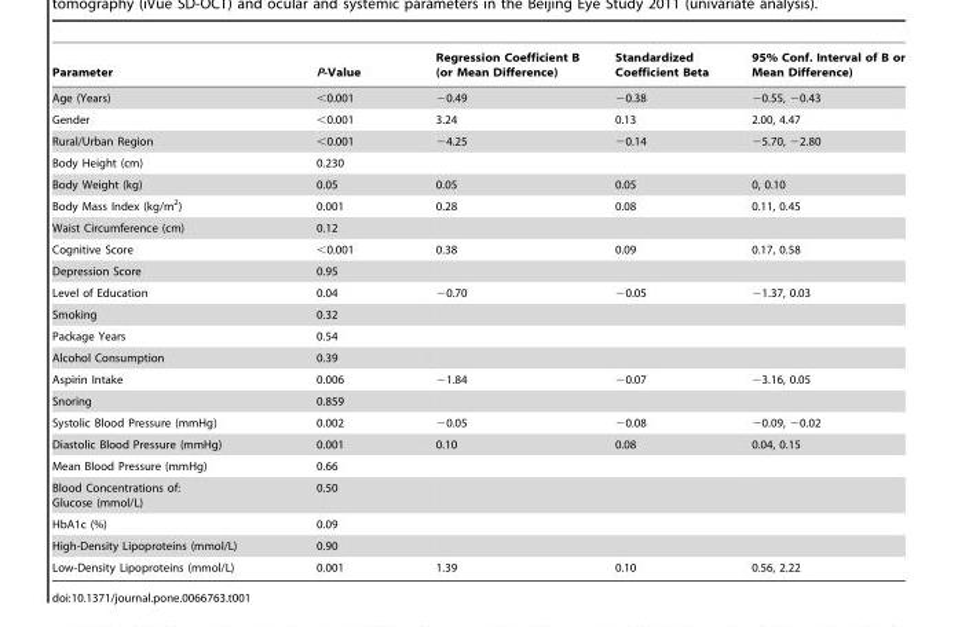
<table><thead><tr><td>Parameter</td><td>P-Value</td><td>Regression Coefficient B (or Mean Difference)</td><td>Standardized Coefficient Beta</td><td>95% Conf. Interval of B or Mean Difference)</td></tr></thead><tbody><tr><td>Age (Years)</td><td>&lt;0.001</td><td>−0.49</td><td>−0.38</td><td>−0.55, −0.43</td></tr><tr><td>Gender</td><td>&lt;0.001</td><td>3.24</td><td>0.13</td><td>2.00, 4.47</td></tr><tr><td>Rural/Urban Region</td><td>&lt;0.001</td><td>−4.25</td><td>−0.14</td><td>−5.70, −2.80</td></tr><tr><td>Body Height (cm)</td><td>0.230</td><td></td><td></td><td></td></tr><tr><td>Body Weight (kg)</td><td>0.05</td><td>0.05</td><td>0.05</td><td>0, 0.10</td></tr><tr><td>Body Mass Index (kg/m<sup>2</sup>)</td><td>0.001</td><td>0.28</td><td>0.08</td><td>0.11, 0.45</td></tr><tr><td>Waist Circumference (cm)</td><td>0.12</td><td></td><td></td><td></td></tr><tr><td>Cognitive Score</td><td>&lt;0.001</td><td>0.38</td><td>0.09</td><td>0.17, 0.58</td></tr><tr><td>Depression Score</td><td>0.95</td><td></td><td></td><td></td></tr><tr><td>Level of Education</td><td>0.04</td><td>−0.70</td><td>−0.05</td><td>−1.37, 0.03</td></tr><tr><td>Smoking</td><td>0.32</td><td></td><td></td><td></td></tr><tr><td>Package Years</td><td>0.54</td><td></td><td></td><td></td></tr><tr><td>Alcohol Consumption</td><td>0.39</td><td></td><td></td><td></td></tr><tr><td>Aspirin Intake</td><td>0.006</td><td>−1.84</td><td>−0.07</td><td>−3.16, 0.05</td></tr><tr><td>Snoring</td><td>0.859</td><td></td><td></td><td></td></tr><tr><td>Systolic Blood Pressure (mmHg)</td><td>0.002</td><td>−0.05</td><td>−0.08</td><td>−0.09, −0.02</td></tr><tr><td>Diastolic Blood Pressure (mmHg)</td><td>0.001</td><td>0.10</td><td>0.08</td><td>0.04, 0.15</td></tr><tr><td>Mean Blood Pressure (mmHg)</td><td>0.66</td><td></td><td></td><td></td></tr><tr><td>Blood Concentrations of: Glucose (mmol/L)</td><td>0.50</td><td></td><td></td><td></td></tr><tr><td>HbA1c (%)</td><td>0.09</td><td></td><td></td><td></td></tr><tr><td>High-Density Lipoproteins (mmol/L)</td><td>0.90</td><td></td><td></td><td></td></tr><tr><td>Low-Density Lipoproteins (mmol/L)</td><td>0.001</td><td>1.39</td><td>0.10</td><td>0.56, 2.22</td></tr></tbody></table>